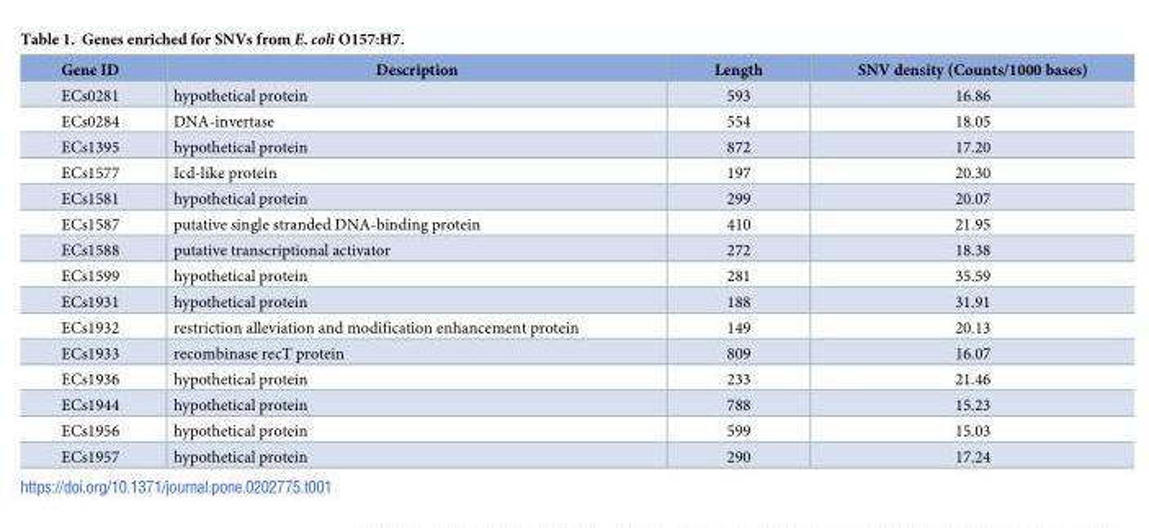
<table><thead><tr><td>Gene ID</td><td>Description</td><td>Length</td><td>SNV density (Counts/1000 bases)</td></tr></thead><tbody><tr><td>ECs0281</td><td>hypothetical protein</td><td>593</td><td>16.86</td></tr><tr><td>ECs0284</td><td>DNA-invertase</td><td>554</td><td>18.05</td></tr><tr><td>ECs1395</td><td>hypothetical protein</td><td>872</td><td>17.20</td></tr><tr><td>ECs1577</td><td>Icd-like protein</td><td>197</td><td>20.30</td></tr><tr><td>ECs1581</td><td>hypothetical protein</td><td>299</td><td>20.07</td></tr><tr><td>ECs1587</td><td>putative single stranded DNA-binding protein</td><td>410</td><td>21.95</td></tr><tr><td>ECs1588</td><td>putative transcriptional activator</td><td>272</td><td>18.38</td></tr><tr><td>ECs1599</td><td>hypothetical protein</td><td>281</td><td>35.59</td></tr><tr><td>ECs1931</td><td>hypothetical protein</td><td>188</td><td>31.91</td></tr><tr><td>ECs1932</td><td>restriction alleviation and modification enhancement protein</td><td>149</td><td>20.13</td></tr><tr><td>ECs1933</td><td>recombinase recT protein</td><td>809</td><td>16.07</td></tr><tr><td>ECs1936</td><td>hypothetical protein</td><td>233</td><td>21.46</td></tr><tr><td>ECs1944</td><td>hypothetical protein</td><td>788</td><td>15.23</td></tr><tr><td>ECs1956</td><td>hypothetical protein</td><td>599</td><td>15.03</td></tr><tr><td>ECs1957</td><td>hypothetical protein</td><td>290</td><td>17.24</td></tr></tbody></table>